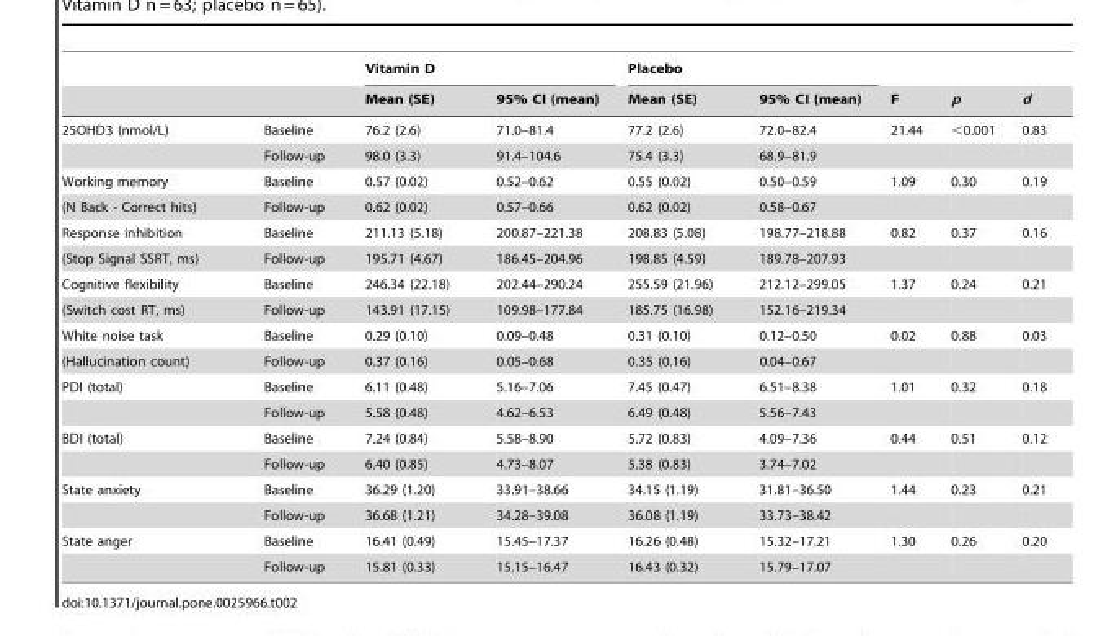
<table><thead><tr><td rowspan="2"></td><td rowspan="2"></td><td colspan="2">Vitamin D</td><td colspan="2">Placebo</td><td rowspan="2">F</td><td rowspan="2">p</td><td rowspan="2">d</td></tr><tr><td>Mean (SE)</td><td>95% CI (mean)</td><td>Mean (SE)</td><td>95% CI (mean)</td></tr></thead><tbody><tr><td rowspan="2">25OHD3 (nmol/L)</td><td>Baseline</td><td>76.2 (2.6)</td><td>71.0–81.4</td><td>77.2 (2.6)</td><td>72.0–82.4</td><td>21.44</td><td>&lt;0.001</td><td>0.83</td></tr><tr><td>Follow-up</td><td>98.0 (3.3)</td><td>91.4–104.6</td><td>75.4 (3.3)</td><td>68.9–81.9</td><td></td><td></td><td></td></tr><tr><td>Working memory</td><td>Baseline</td><td>0.57 (0.02)</td><td>0.52–0.62</td><td>0.55 (0.02)</td><td>0.50–0.59</td><td>1.09</td><td>0.30</td><td>0.19</td></tr><tr><td>(N Back - Correct hits)</td><td>Follow-up</td><td>0.62 (0.02)</td><td>0.57–0.66</td><td>0.62 (0.02)</td><td>0.58–0.67</td><td></td><td></td><td></td></tr><tr><td>Response inhibition</td><td>Baseline</td><td>211.13 (5.18)</td><td>200.87–221.38</td><td>208.83 (5.08)</td><td>198.77–218.88</td><td>0.82</td><td>0.37</td><td>0.16</td></tr><tr><td>(Stop Signal SSRT, ms)</td><td>Follow-up</td><td>195.71 (4.67)</td><td>186.45–204.96</td><td>198.85 (4.59)</td><td>189.78–207.93</td><td></td><td></td><td></td></tr><tr><td>Cognitive flexibility</td><td>Baseline</td><td>246.34 (22.18)</td><td>202.44–290.24</td><td>255.59 (21.96)</td><td>212.12–299.05</td><td>1.37</td><td>0.24</td><td>0.21</td></tr><tr><td>(Switch cost RT, ms)</td><td>Follow-up</td><td>143.91 (17.15)</td><td>109.98–177.84</td><td>185.75 (16.98)</td><td>152.16–219.34</td><td></td><td></td><td></td></tr><tr><td>White noise task</td><td>Baseline</td><td>0.29 (0.10)</td><td>0.09–0.48</td><td>0.31 (0.10)</td><td>0.12–0.50</td><td>0.02</td><td>0.88</td><td>0.03</td></tr><tr><td>(Hallucination count)</td><td>Follow-up</td><td>0.37 (0.16)</td><td>0.05–0.68</td><td>0.35 (0.16)</td><td>0.04–0.67</td><td></td><td></td><td></td></tr><tr><td rowspan="2">PDI (total)</td><td>Baseline</td><td>6.11 (0.48)</td><td>5.16–7.06</td><td>7.45 (0.47)</td><td>6.51–8.38</td><td>1.01</td><td>0.32</td><td>0.18</td></tr><tr><td>Follow-up</td><td>5.58 (0.48)</td><td>4.62–6.53</td><td>6.49 (0.48)</td><td>5.56–7.43</td><td></td><td></td><td></td></tr><tr><td rowspan="2">BDI (total)</td><td>Baseline</td><td>7.24 (0.84)</td><td>5.58–8.90</td><td>5.72 (0.83)</td><td>4.09–7.36</td><td>0.44</td><td>0.51</td><td>0.12</td></tr><tr><td>Follow-up</td><td>6.40 (0.85)</td><td>4.73–8.07</td><td>5.38 (0.83)</td><td>3.74–7.02</td><td></td><td></td><td></td></tr><tr><td rowspan="2">State anxiety</td><td>Baseline</td><td>36.29 (1.20)</td><td>33.91–38.66</td><td>34.15 (1.19)</td><td>31.81–36.50</td><td>1.44</td><td>0.23</td><td>0.21</td></tr><tr><td>Follow-up</td><td>36.68 (1.21)</td><td>34.28–39.08</td><td>36.08 (1.19)</td><td>33.73–38.42</td><td></td><td></td><td></td></tr><tr><td rowspan="2">State anger</td><td>Baseline</td><td>16.41 (0.49)</td><td>15.45–17.37</td><td>16.26 (0.48)</td><td>15.32–17.21</td><td>1.30</td><td>0.26</td><td>0.20</td></tr><tr><td>Follow-up</td><td>15.81 (0.33)</td><td>15.15–16.47</td><td>16.43 (0.32)</td><td>15.79–17.07</td><td></td><td></td><td></td></tr></tbody></table>